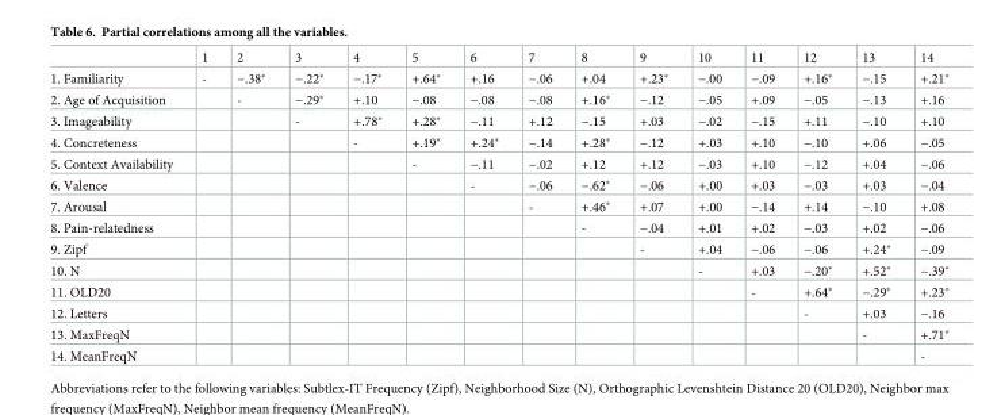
<table><thead><tr><td></td><td>1</td><td>2</td><td>3</td><td>4</td><td>5</td><td>6</td><td>7</td><td>8</td><td>9</td><td>10</td><td>11</td><td>12</td><td>13</td><td>14</td></tr></thead><tbody><tr><td>1. Familiarity</td><td>-</td><td>−.38*</td><td>−.22*</td><td>−.17*</td><td>+.64*</td><td>+.16</td><td>−.06</td><td>+.04</td><td>+.23*</td><td>−.00</td><td>−.09</td><td>+.16*</td><td>−.15</td><td>+.21*</td></tr><tr><td>2. Age of Acquisition</td><td></td><td>-</td><td>−.29*</td><td>+.10</td><td>−.08</td><td>−.08</td><td>−.08</td><td>+.16*</td><td>−.12</td><td>−.05</td><td>+.09</td><td>−.05</td><td>−.13</td><td>+.16</td></tr><tr><td>3. Imageability</td><td></td><td></td><td>-</td><td>+.78*</td><td>+.28*</td><td>−.11</td><td>+.12</td><td>−.15</td><td>+.03</td><td>−.02</td><td>−.15</td><td>+.11</td><td>−.10</td><td>+.10</td></tr><tr><td>4. Concreteness</td><td></td><td></td><td></td><td>-</td><td>+.19*</td><td>+.24*</td><td>−.14</td><td>+.28*</td><td>−.12</td><td>+.03</td><td>+.10</td><td>−.10</td><td>+.06</td><td>−.05</td></tr><tr><td>5. Context Availability</td><td></td><td></td><td></td><td></td><td>-</td><td>−.11</td><td>−.02</td><td>+.12</td><td>+.12</td><td>−.03</td><td>+.10</td><td>−.12</td><td>+.04</td><td>−.06</td></tr><tr><td>6. Valence</td><td></td><td></td><td></td><td></td><td></td><td>-</td><td>−.06</td><td>−.62*</td><td>−.06</td><td>+.00</td><td>+.03</td><td>−.03</td><td>+.03</td><td>−.04</td></tr><tr><td>7. Arousal</td><td></td><td></td><td></td><td></td><td></td><td></td><td>-</td><td>+.46*</td><td>+.07</td><td>+.00</td><td>−.14</td><td>+.14</td><td>−.10</td><td>+.08</td></tr><tr><td>8. Pain-relatedness</td><td></td><td></td><td></td><td></td><td></td><td></td><td></td><td>-</td><td>−.04</td><td>+.01</td><td>+.02</td><td>−.03</td><td>+.02</td><td>−.06</td></tr><tr><td>9. Zipf</td><td></td><td></td><td></td><td></td><td></td><td></td><td></td><td></td><td>-</td><td>+.04</td><td>−.06</td><td>−.06</td><td>+.24*</td><td>−.09</td></tr><tr><td>10. N</td><td></td><td></td><td></td><td></td><td></td><td></td><td></td><td></td><td></td><td>-</td><td>+.03</td><td>−.20*</td><td>+.52*</td><td>−.39*</td></tr><tr><td>11. OLD20</td><td></td><td></td><td></td><td></td><td></td><td></td><td></td><td></td><td></td><td></td><td>-</td><td>+.64*</td><td>−.29*</td><td>+.23*</td></tr><tr><td>12. Letters</td><td></td><td></td><td></td><td></td><td></td><td></td><td></td><td></td><td></td><td></td><td></td><td>-</td><td>+.03</td><td>−.16</td></tr><tr><td>13. MaxFreqN</td><td></td><td></td><td></td><td></td><td></td><td></td><td></td><td></td><td></td><td></td><td></td><td></td><td>-</td><td>+.71*</td></tr><tr><td>14. MeanFreqN</td><td></td><td></td><td></td><td></td><td></td><td></td><td></td><td></td><td></td><td></td><td></td><td></td><td></td><td>-</td></tr></tbody></table>